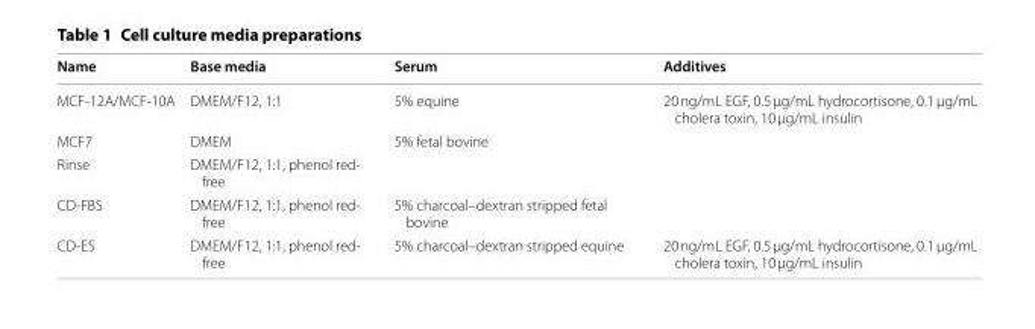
<table><thead><tr><td>Name</td><td>Base media</td><td>Serum</td><td>Additives</td></tr></thead><tbody><tr><td>MCF-12A/MCF-10A</td><td>DMEM/F12, 1:1</td><td>5% equine</td><td>20 ng/mL EGF, 0.5 μg/mL hydrocortisone, 0.1 μg/mL cholera toxin, 10 μg/mL insulin</td></tr><tr><td>MCF7</td><td>DMEM</td><td>5% fetal bovine</td><td></td></tr><tr><td>Rinse</td><td>DMEM/F12, 1:1, phenol red- free</td><td></td><td></td></tr><tr><td>CD-FBS</td><td>DMEM/F12, 1:1, phenol red- free</td><td>5% charcoal–dextran stripped fetal bovine</td><td></td></tr><tr><td>CD-ES</td><td>DMEM/F12, 1:1, phenol red- free</td><td>5% charcoal–dextran stripped equine</td><td>20 ng/mL EGF, 0.5 μg/mL hydrocortisone, 0.1 μg/mL cholera toxin, 10 μg/mL insulin</td></tr></tbody></table>